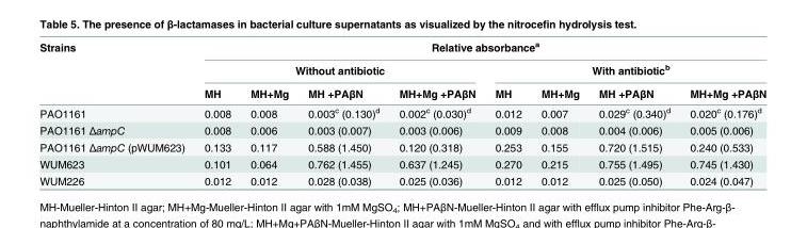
<table><thead><tr><td rowspan="3">Strains</td><td colspan="8">Relative absorbance<sup>a</sup></td></tr><tr><td colspan="4">Without antibiotic</td><td colspan="4">With antibiotic<sup>b</sup></td></tr><tr><td>MH</td><td>MH+Mg</td><td>MH +PAβN</td><td>MH+Mg +PAβN</td><td>MH</td><td>MH+Mg</td><td>MH +PAβN</td><td>MH+Mg +PAβN</td></tr></thead><tbody><tr><td>PAO1161</td><td>0.008</td><td>0.008</td><td>0.003<sup>c</sup> (0.130)<sup>d</sup></td><td>0.002<sup>c</sup> (0.030)<sup>d</sup></td><td>0.012</td><td>0.007</td><td>0.029<sup>c</sup> (0.340)<sup>d</sup></td><td>0.020<sup>c</sup> (0.176)<sup>d</sup></td></tr><tr><td>PAO1161 ΔampC</td><td>0.008</td><td>0.006</td><td>0.003 (0.007)</td><td>0.003 (0.006)</td><td>0.009</td><td>0.008</td><td>0.004 (0.006)</td><td>0.005 (0.006)</td></tr><tr><td>PAO1161 ΔampC (pWUM623)</td><td>0.133</td><td>0.117</td><td>0.588 (1.450)</td><td>0.120 (0.318)</td><td>0.253</td><td>0.155</td><td>0.720 (1.515)</td><td>0.240 (0.533)</td></tr><tr><td>WUM623</td><td>0.101</td><td>0.064</td><td>0.762 (1.455)</td><td>0.637 (1.245)</td><td>0.270</td><td>0.215</td><td>0.755 (1.495)</td><td>0.745 (1.430)</td></tr><tr><td>WUM226</td><td>0.012</td><td>0.012</td><td>0.028 (0.038)</td><td>0.025 (0.036)</td><td>0.012</td><td>0.012</td><td>0.025 (0.050)</td><td>0.024 (0.047)</td></tr></tbody></table>